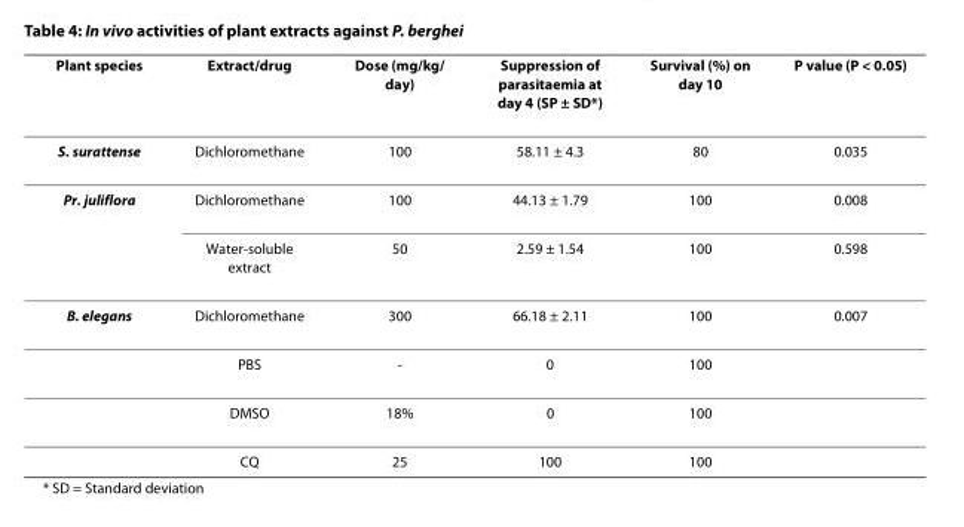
<table><thead><tr><td>Plant species</td><td>Extract/drug</td><td>Dose (mg/kg/ day)</td><td>Suppression of parasitaemia at day 4 (SP ± SD*)</td><td>Survival (%) on day 10</td><td>P value (P &lt; 0.05)</td></tr></thead><tbody><tr><td>S. surattense</td><td>Dichloromethane</td><td>100</td><td>58.11 ± 4.3</td><td>80</td><td>0.035</td></tr><tr><td rowspan="2">Pr. juliflora</td><td>Dichloromethane</td><td>100</td><td>44.13 ± 1.79</td><td>100</td><td>0.008</td></tr><tr><td>Water-soluble extract</td><td>50</td><td>2.59 ± 1.54</td><td>100</td><td>0.598</td></tr><tr><td rowspan="4">B. elegans</td><td>Dichloromethane</td><td>300</td><td>66.18 ± 2.11</td><td>100</td><td>0.007</td></tr><tr><td>PBS</td><td>-</td><td>0</td><td>100</td><td></td></tr><tr><td>DMSO</td><td>18%</td><td>0</td><td>100</td><td></td></tr><tr><td>CQ</td><td>25</td><td>100</td><td>100</td><td></td></tr></tbody></table>